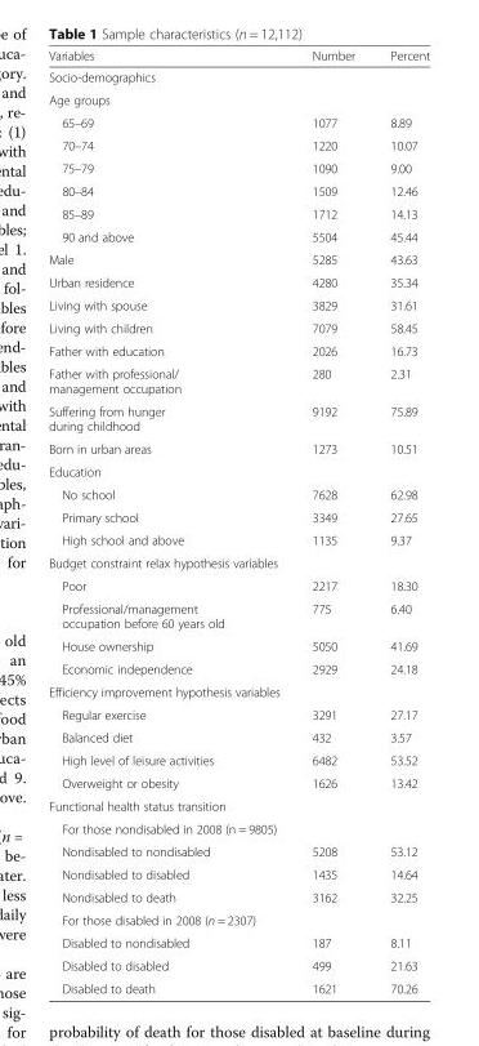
<table><thead><tr><td>Variables</td><td>Number</td><td>Percent</td></tr></thead><tbody><tr><td colspan="3">Socio-demographics</td></tr><tr><td colspan="3">Age groups</td></tr><tr><td>65–69</td><td>1077</td><td>8.89</td></tr><tr><td>70–74</td><td>1220</td><td>10.07</td></tr><tr><td>75–79</td><td>1090</td><td>9.00</td></tr><tr><td>80–84</td><td>1509</td><td>12.46</td></tr><tr><td>85–89</td><td>1712</td><td>14.13</td></tr><tr><td>90 and above</td><td>5504</td><td>45.44</td></tr><tr><td>Male</td><td>5285</td><td>43.63</td></tr><tr><td>Urban residence</td><td>4280</td><td>35.34</td></tr><tr><td>Living with spouse</td><td>3829</td><td>31.61</td></tr><tr><td>Living with children</td><td>7079</td><td>58.45</td></tr><tr><td>Father with education</td><td>2026</td><td>16.73</td></tr><tr><td>Father with professional/ management occupation</td><td>280</td><td>2.31</td></tr><tr><td>Suffering from hunger during childhood</td><td>9192</td><td>75.89</td></tr><tr><td>Born in urban areas</td><td>1273</td><td>10.51</td></tr><tr><td colspan="3">Education</td></tr><tr><td>No school</td><td>7628</td><td>62.98</td></tr><tr><td>Primary school</td><td>3349</td><td>27.65</td></tr><tr><td>High school and above</td><td>1135</td><td>9.37</td></tr><tr><td colspan="3">Budget constraint relax hypothesis variables</td></tr><tr><td>Poor</td><td>2217</td><td>18.30</td></tr><tr><td>Professional/management occupation before 60 years old</td><td>775</td><td>6.40</td></tr><tr><td>House ownership</td><td>5050</td><td>41.69</td></tr><tr><td>Economic independence</td><td>2929</td><td>24.18</td></tr><tr><td colspan="3">Efficiency improvement hypothesis variables</td></tr><tr><td>Regular exercise</td><td>3291</td><td>27.17</td></tr><tr><td>Balanced diet</td><td>432</td><td>3.57</td></tr><tr><td>High level of leisure activities</td><td>6482</td><td>53.52</td></tr><tr><td>Overweight or obesity</td><td>1626</td><td>13.42</td></tr><tr><td colspan="3">Functional health status transition</td></tr><tr><td colspan="3">For those nondisabled in 2008 (n = 9805)</td></tr><tr><td>Nondisabled to nondisabled</td><td>5208</td><td>53.12</td></tr><tr><td>Nondisabled to disabled</td><td>1435</td><td>14.64</td></tr><tr><td>Nondisabled to death</td><td>3162</td><td>32.25</td></tr><tr><td colspan="3">For those disabled in 2008 (n = 2307)</td></tr><tr><td>Disabled to nondisabled</td><td>187</td><td>8.11</td></tr><tr><td>Disabled to disabled</td><td>499</td><td>21.63</td></tr><tr><td>Disabled to death</td><td>1621</td><td>70.26</td></tr></tbody></table>